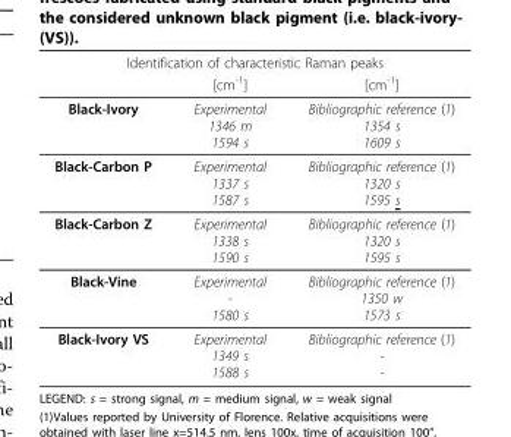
<table><thead><tr><td colspan="3">Identification of characteristic Raman peaks</td></tr><tr><td></td><td>[cm<sup>-1</sup>]</td><td>[cm<sup>-1</sup>]</td></tr></thead><tbody><tr><td>Black-Ivory</td><td>Experimental 1346 m 1594 s</td><td>Bibliographic reference (1) 1354 s 1609 s</td></tr><tr><td>Black-Carbon P</td><td>Experimental 1337 s 1587 s</td><td>Bibliographic reference (1) 1320 s 1595 s</td></tr><tr><td>Black-Carbon Z</td><td>Experimental 1338 s 1590 s</td><td>Bibliographic reference (1) 1320 s 1595 s</td></tr><tr><td>Black-Vine</td><td>Experimental - 1580 s</td><td>Bibliographic reference (1) 1350 w 1573 s</td></tr><tr><td>Black-Ivory VS</td><td>Experimental 1349 s 1588 s</td><td>Bibliographic reference (1) - -</td></tr></tbody></table>